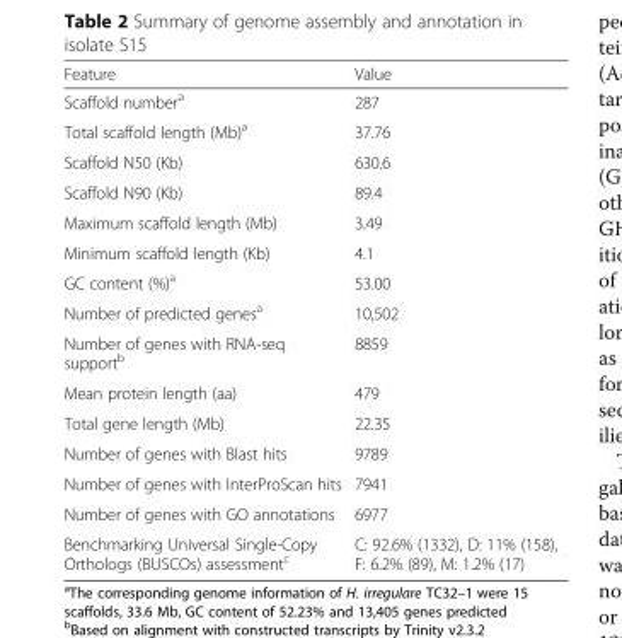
<table><thead><tr><td>Feature</td><td>Value</td></tr></thead><tbody><tr><td>Scaffold number<sup>a</sup></td><td>287</td></tr><tr><td>Total scaffold length (Mb)<sup>a</sup></td><td>37.76</td></tr><tr><td>Scaffold N50 (Kb)</td><td>630.6</td></tr><tr><td>Scaffold N90 (Kb)</td><td>89.4</td></tr><tr><td>Maximum scaffold length (Mb)</td><td>3.49</td></tr><tr><td>Minimum scaffold length (Kb)</td><td>4.1</td></tr><tr><td>GC content (%)<sup>a</sup></td><td>53.00</td></tr><tr><td>Number of predicted genes<sup>a</sup></td><td>10,502</td></tr><tr><td>Number of genes with RNA-seq support<sup>b</sup></td><td>8859</td></tr><tr><td>Mean protein length (aa)</td><td>479</td></tr><tr><td>Total gene length (Mb)</td><td>22.35</td></tr><tr><td>Number of genes with Blast hits</td><td>9789</td></tr><tr><td>Number of genes with InterProScan hits</td><td>7941</td></tr><tr><td>Number of genes with GO annotations</td><td>6977</td></tr><tr><td>Benchmarking Universal Single-Copy Orthologs (BUSCOs) assessment<sup>c</sup></td><td>C: 92.6% (1332), D: 11% (158), F: 6.2% (89), M: 1.2% (17)</td></tr></tbody></table>